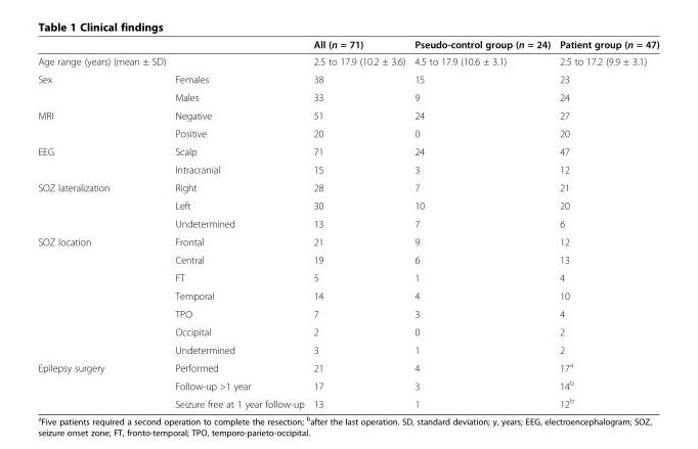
<table><thead><tr><td></td><td></td><td>All (n = 71)</td><td>Pseudo-control group (n = 24)</td><td>Patient group (n = 47)</td></tr></thead><tbody><tr><td>Age range (years) (mean ± SD)</td><td></td><td>2.5 to 17.9 (10.2 ± 3.6)</td><td>4.5 to 17.9 (10.6 ± 3.1)</td><td>2.5 to 17.2 (9.9 ± 3.1)</td></tr><tr><td rowspan="2">Sex</td><td>Females</td><td>38</td><td>15</td><td>23</td></tr><tr><td>Males</td><td>33</td><td>9</td><td>24</td></tr><tr><td rowspan="2">MRI</td><td>Negative</td><td>51</td><td>24</td><td>27</td></tr><tr><td>Positive</td><td>20</td><td>0</td><td>20</td></tr><tr><td rowspan="2">EEG</td><td>Scalp</td><td>71</td><td>24</td><td>47</td></tr><tr><td>Intracranial</td><td>15</td><td>3</td><td>12</td></tr><tr><td rowspan="3">SOZ lateralization</td><td>Right</td><td>28</td><td>7</td><td>21</td></tr><tr><td>Left</td><td>30</td><td>10</td><td>20</td></tr><tr><td>Undetermined</td><td>13</td><td>7</td><td>6</td></tr><tr><td rowspan="7">SOZ location</td><td>Frontal</td><td>21</td><td>9</td><td>12</td></tr><tr><td>Central</td><td>19</td><td>6</td><td>13</td></tr><tr><td>FT</td><td>5</td><td>1</td><td>4</td></tr><tr><td>Temporal</td><td>14</td><td>4</td><td>10</td></tr><tr><td>TPO</td><td>7</td><td>3</td><td>4</td></tr><tr><td>Occipital</td><td>2</td><td>0</td><td>2</td></tr><tr><td>Undetermined</td><td>3</td><td>1</td><td>2</td></tr><tr><td rowspan="3">Epilepsy surgery</td><td>Performed</td><td>21</td><td>4</td><td>17<sup>a</sup></td></tr><tr><td>Follow-up &gt;1 year</td><td>17</td><td>3</td><td>14<sup>b</sup></td></tr><tr><td>Seizure free at 1 year follow-up</td><td>13</td><td>1</td><td>12<sup>b</sup></td></tr></tbody></table>